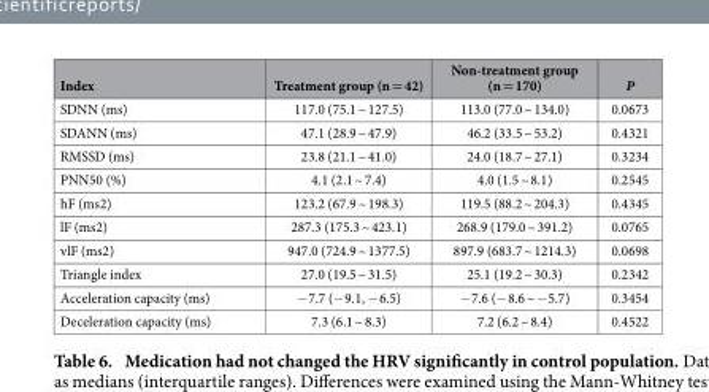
<table><thead><tr><td>Index</td><td>Treatment group (n = 42)</td><td>Non-treatment group (n = 170)</td><td>P</td></tr></thead><tbody><tr><td>SDNN (ms)</td><td>117.0 (75.1 ~ 127.5)</td><td>113.0 (77.0 ~ 134.0)</td><td>0.0673</td></tr><tr><td>SDANN (ms)</td><td>47.1 (28.9 ~ 47.9)</td><td>46.2 (33.5 ~ 53.2)</td><td>0.4321</td></tr><tr><td>RMSSD (ms)</td><td>23.8 (21.1 ~ 41.0)</td><td>24.0 (18.7 ~ 27.1)</td><td>0.3234</td></tr><tr><td>PNN50 (%)</td><td>4.1 (2.1 ~ 7.4)</td><td>4.0 (1.5 ~ 8.1)</td><td>0.2545</td></tr><tr><td>hF (ms2)</td><td>123.2 (67.9 ~ 198.3)</td><td>119.5 (88.2 ~ 204.3)</td><td>0.4345</td></tr><tr><td>lF (ms2)</td><td>287.3 (175.3 ~ 423.1)</td><td>268.9 (179.0 ~ 391.2)</td><td>0.0765</td></tr><tr><td>vlF (ms2)</td><td>947.0 (724.9 ~ 1377.5)</td><td>897.9 (683.7 ~ 1214.3)</td><td>0.0698</td></tr><tr><td>Triangle index</td><td>27.0 (19.5 ~ 31.5)</td><td>25.1 (19.2 ~ 30.3)</td><td>0.2342</td></tr><tr><td>Acceleration capacity (ms)</td><td>− 7.7 (− 9.1, − 6.5)</td><td>− 7.6 (− 8.6 ~ − 5.7)</td><td>0.3454</td></tr><tr><td>Deceleration capacity (ms)</td><td>7.3 (6.1 ~ 8.3)</td><td>7.2 (6.2 ~ 8.4)</td><td>0.4522</td></tr></tbody></table>